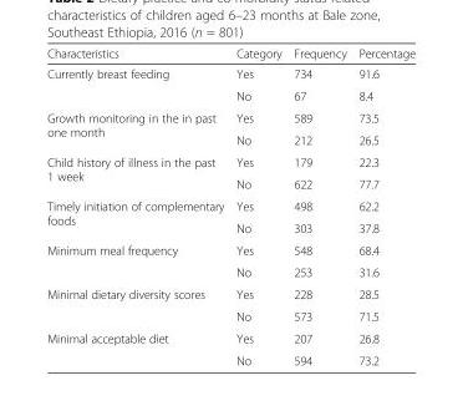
<table><thead><tr><td>Characteristics</td><td>Category</td><td>Frequency</td><td>Percentage</td></tr></thead><tbody><tr><td rowspan="2">Currently breast feeding</td><td>Yes</td><td>734</td><td>91.6</td></tr><tr><td>No</td><td>67</td><td>8.4</td></tr><tr><td rowspan="2">Growth monitoring in the in past one month</td><td>Yes</td><td>589</td><td>73.5</td></tr><tr><td>No</td><td>212</td><td>26.5</td></tr><tr><td rowspan="2">Child history of illness in the past 1 week</td><td>Yes</td><td>179</td><td>22.3</td></tr><tr><td>No</td><td>622</td><td>77.7</td></tr><tr><td rowspan="2">Timely initiation of complementary foods</td><td>Yes</td><td>498</td><td>62.2</td></tr><tr><td>No</td><td>303</td><td>37.8</td></tr><tr><td rowspan="2">Minimum meal frequency</td><td>Yes</td><td>548</td><td>68.4</td></tr><tr><td>No</td><td>253</td><td>31.6</td></tr><tr><td rowspan="2">Minimal dietary diversity scores</td><td>Yes</td><td>228</td><td>28.5</td></tr><tr><td>No</td><td>573</td><td>71.5</td></tr><tr><td rowspan="2">Minimal acceptable diet</td><td>Yes</td><td>207</td><td>26.8</td></tr><tr><td>No</td><td>594</td><td>73.2</td></tr></tbody></table>